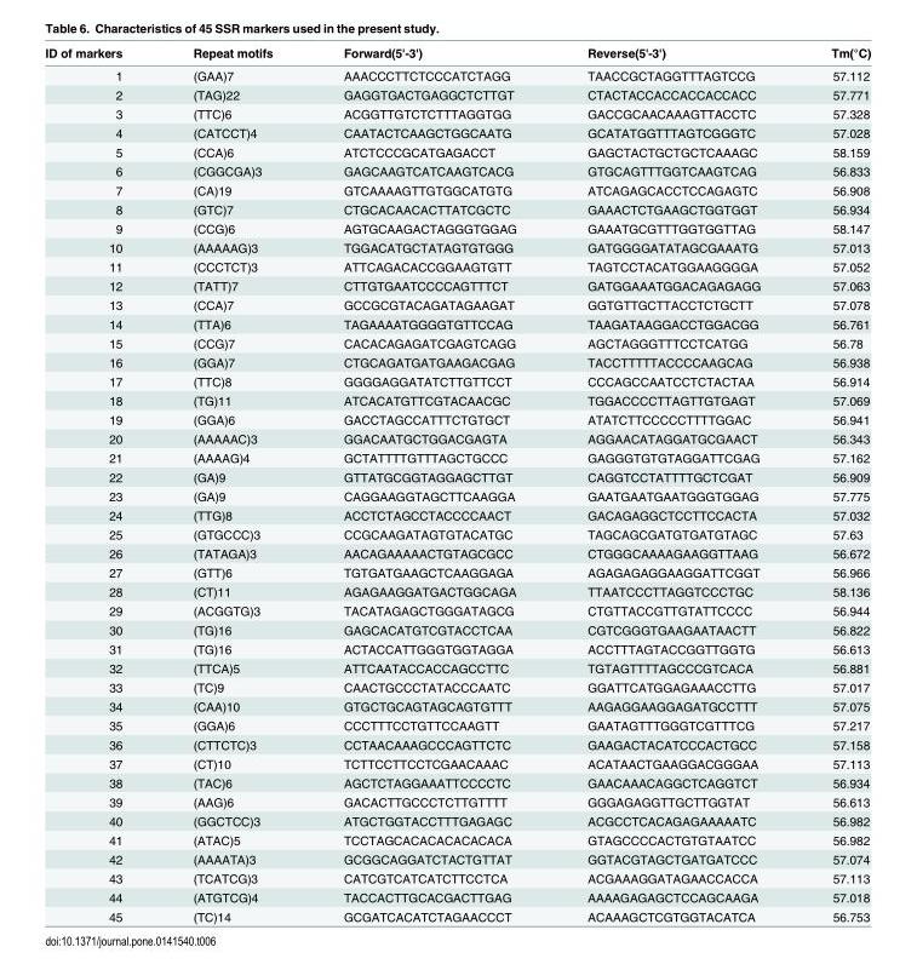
<table><thead><tr><td>ID of markers</td><td>Repeat motifs</td><td>Forward(5&#x27;-3&#x27;)</td><td>Reverse(5&#x27;-3&#x27;)</td><td>Tm(°C)</td></tr></thead><tbody><tr><td>1</td><td>(GAA)7</td><td>AAACCCTTCTCCCATCTAGG</td><td>TAACCGCTAGGTTTAGTCCG</td><td>57.112</td></tr><tr><td>2</td><td>(TAG)22</td><td>GAGGTGACTGAGGCTCTTGT</td><td>CTACTACCACCACCACCACC</td><td>57.771</td></tr><tr><td>3</td><td>(TTC)6</td><td>ACGGTTGTCTCTTTAGGTGG</td><td>GACCGCAACAAAGTTACCTC</td><td>57.328</td></tr><tr><td>4</td><td>(CATCCT)4</td><td>CAATACTCAAGCTGGCAATG</td><td>GCATATGGTTTAGTCGGGTC</td><td>57.028</td></tr><tr><td>5</td><td>(CCA)6</td><td>ATCTCCCGCATGAGACCT</td><td>GAGCTACTGCTGCTCAAAGC</td><td>58.159</td></tr><tr><td>6</td><td>(CGGCGA)3</td><td>GAGCAAGTCATCAAGTCACG</td><td>GTGCAGTTTGGTCAAGTCAG</td><td>56.833</td></tr><tr><td>7</td><td>(CA)19</td><td>GTCAAAAGTTGTGGCATGTG</td><td>ATCAGAGCACCTCCAGAGTC</td><td>56.908</td></tr><tr><td>8</td><td>(GTC)7</td><td>CTGCACAACACTTATCGCTC</td><td>GAAACTCTGAAGCTGGTGGT</td><td>56.934</td></tr><tr><td>9</td><td>(CCG)6</td><td>AGTGCAAGACTAGGGTGGAG</td><td>GAAATGCGTTTGGTGGTTAG</td><td>58.147</td></tr><tr><td>10</td><td>(AAAAAG)3</td><td>TGGACATGCTATAGTGTGGG</td><td>GATGGGGATATAGCGAAATG</td><td>57.013</td></tr><tr><td>11</td><td>(CCCTCT)3</td><td>ATTCAGACACCGGAAGTGTT</td><td>TAGTCCTACATGGAAGGGGA</td><td>57.052</td></tr><tr><td>12</td><td>(TATT)7</td><td>CTTGTGAATCCCCAGTTTCT</td><td>GATGGAAATGGACAGAGAGG</td><td>57.063</td></tr><tr><td>13</td><td>(CCA)7</td><td>GCCGCGTACAGATAGAAGAT</td><td>GGTGTTGCTTACCTCTGCTT</td><td>57.078</td></tr><tr><td>14</td><td>(TTA)6</td><td>TAGAAAATGGGGTGTTCCAG</td><td>TAAGATAAGGACCTGGACGG</td><td>56.761</td></tr><tr><td>15</td><td>(CCG)7</td><td>CACACAGAGATCGAGTCAGG</td><td>AGCTAGGGTTTCCTCATGG</td><td>56.78</td></tr><tr><td>16</td><td>(GGA)7</td><td>CTGCAGATGATGAAGACGAG</td><td>TACCTTTTTACCCCAAGCAG</td><td>56.938</td></tr><tr><td>17</td><td>(TTC)8</td><td>GGGGAGGATATCTTGTTCCT</td><td>CCCAGCCAATCCTCTACTAA</td><td>56.914</td></tr><tr><td>18</td><td>(TG)11</td><td>ATCACATGTTCGTACAACGC</td><td>TGGACCCCTTAGTTGTGAGT</td><td>57.069</td></tr><tr><td>19</td><td>(GGA)6</td><td>GACCTAGCCATTTCTGTGCT</td><td>ATATCTTCCCCCTTTTGGAC</td><td>56.941</td></tr><tr><td>20</td><td>(AAAAAC)3</td><td>GGACAATGCTGGACGAGTA</td><td>AGGAACATAGGATGCGAACT</td><td>56.343</td></tr><tr><td>21</td><td>(AAAAG)4</td><td>GCTATTTTGTTTAGCTGCCC</td><td>GAGGGTGTGTAGGATTCGAG</td><td>57.162</td></tr><tr><td>22</td><td>(GA)9</td><td>GTTATGCGGTAGGAGCTTGT</td><td>CAGGTCCTATTTTGCTCGAT</td><td>56.909</td></tr><tr><td>23</td><td>(GA)9</td><td>CAGGAAGGTAGCTTCAAGGA</td><td>GAATGAATGAATGGGTGGAG</td><td>57.775</td></tr><tr><td>24</td><td>(TTG)8</td><td>ACCTCTAGCCTACCCCAACT</td><td>GACAGAGGCTCCTTCCACTA</td><td>57.032</td></tr><tr><td>25</td><td>(GTGCCC)3</td><td>CCGCAAGATAGTGTACATGC</td><td>TAGCAGCGATGTGATGTAGC</td><td>57.63</td></tr><tr><td>26</td><td>(TATAGA)3</td><td>AACAGAAAAACTGTAGCGCC</td><td>CTGGGCAAAAGAAGGTTAAG</td><td>56.672</td></tr><tr><td>27</td><td>(GTT)6</td><td>TGTGATGAAGCTCAAGGAGA</td><td>AGAGAGAGGAAGGATTCGGT</td><td>56.966</td></tr><tr><td>28</td><td>(CT)11</td><td>AGAGAAGGATGACTGGCAGA</td><td>TTAATCCCTTAGGTCCCTGC</td><td>58.136</td></tr><tr><td>29</td><td>(ACGGTG)3</td><td>TACATAGAGCTGGGATAGCG</td><td>CTGTTACCGTTGTATTCCCC</td><td>56.944</td></tr><tr><td>30</td><td>(TG)16</td><td>GAGCACATGTCGTACCTCAA</td><td>CGTCGGGTGAAGAATAACTT</td><td>56.822</td></tr><tr><td>31</td><td>(TG)16</td><td>ACTACCATTGGGTGGTAGGA</td><td>ACCTTTAGTACCGGTTGGTG</td><td>56.613</td></tr><tr><td>32</td><td>(TTCA)5</td><td>ATTCAATACCACCAGCCTTC</td><td>TGTAGTTTTAGCCCGTCACA</td><td>56.881</td></tr><tr><td>33</td><td>(TC)9</td><td>CAACTGCCCTATACCCAATC</td><td>GGATTCATGGAGAAACCTTG</td><td>57.017</td></tr><tr><td>34</td><td>(CAA)10</td><td>GTGCTGCAGTAGCAGTGTTT</td><td>AAGAGGAAGGAGATGCCTTT</td><td>57.075</td></tr><tr><td>35</td><td>(GGA)6</td><td>CCCTTTCCTGTTCCAAGTT</td><td>GAATAGTTTGGGTCGTTTCG</td><td>57.217</td></tr><tr><td>36</td><td>(CTTCTC)3</td><td>CCTAACAAAGCCCAGTTCTC</td><td>GAAGACTACATCCCACTGCC</td><td>57.158</td></tr><tr><td>37</td><td>(CT)10</td><td>TCTTCCTTCCTCGAACAAAC</td><td>ACATAACTGAAGGACGGGAA</td><td>57.113</td></tr><tr><td>38</td><td>(TAC)6</td><td>AGCTCTAGGAAATTCCCCTC</td><td>GAACAAACAGGCTCAGGTCT</td><td>56.934</td></tr><tr><td>39</td><td>(AAG)6</td><td>GACACTTGCCCTCTTGTTTT</td><td>GGGAGAGGTTGCTTGGTAT</td><td>56.613</td></tr><tr><td>40</td><td>(GGCTCC)3</td><td>ATGCTGGTACCTTTGAGAGC</td><td>ACGCCTCACAGAGAAAAATC</td><td>56.982</td></tr><tr><td>41</td><td>(ATAC)5</td><td>TCCTAGCACACACACACACA</td><td>GTAGCCCCACTGTGTAATCC</td><td>56.982</td></tr><tr><td>42</td><td>(AAAATA)3</td><td>GCGGCAGGATCTACTGTTAT</td><td>GGTACGTAGCTGATGATCCC</td><td>57.074</td></tr><tr><td>43</td><td>(TCATCG)3</td><td>CATCGTCATCATCTTCCTCA</td><td>ACGAAAGGATAGAACCACCA</td><td>57.113</td></tr><tr><td>44</td><td>(ATGTCG)4</td><td>TACCACTTGCACGACTTGAG</td><td>AAAAGAGAGCTCCAGCAAGA</td><td>57.018</td></tr><tr><td>45</td><td>(TC)14</td><td>GCGATCACATCTAGAACCCT</td><td>ACAAAGCTCGTGGTACATCA</td><td>56.753</td></tr></tbody></table>